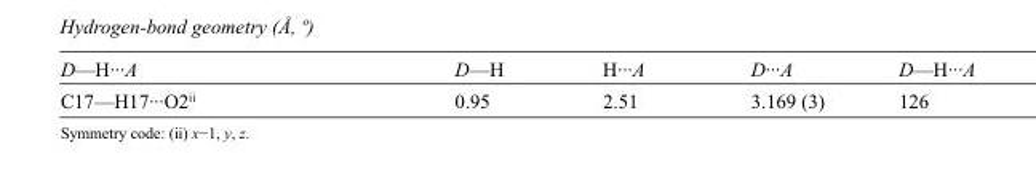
<table><tbody><tr><td>D—H···A</td><td>D—H</td><td>H···A</td><td>D···A</td><td>D—H···A</td></tr><tr><td>C17—H17···O2<sup>ii</sup></td><td>0.95</td><td>2.51</td><td>3.169 (3)</td><td>126</td></tr></tbody></table>